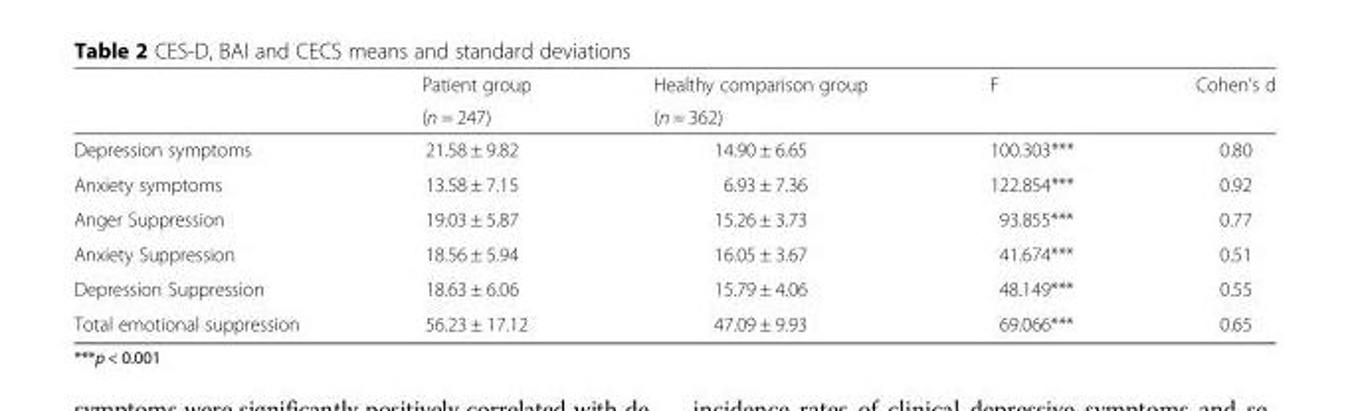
<table><thead><tr><td rowspan="2"></td><td rowspan="2">Patient group (n = 247)</td><td rowspan="2">Healthy comparison group (n = 362)</td><td rowspan="2">F</td><td rowspan="2">Cohen’s d</td></tr><tr></tr></thead><tbody><tr><td>Depression symptoms</td><td>21.58 ± 9.82</td><td>14.90 ± 6.65</td><td>100.303***</td><td>0.80</td></tr><tr><td>Anxiety symptoms</td><td>13.58 ± 7.15</td><td>6.93 ± 7.36</td><td>122.854***</td><td>0.92</td></tr><tr><td>Anger Suppression</td><td>19.03 ± 5.87</td><td>15.26 ± 3.73</td><td>93.855***</td><td>0.77</td></tr><tr><td>Anxiety Suppression</td><td>18.56 ± 5.94</td><td>16.05 ± 3.67</td><td>41.674***</td><td>0.51</td></tr><tr><td>Depression Suppression</td><td>18.63 ± 6.06</td><td>15.79 ± 4.06</td><td>48.149***</td><td>0.55</td></tr><tr><td>Total emotional suppression</td><td>56.23 ± 17.12</td><td>47.09 ± 9.93</td><td>69.066***</td><td>0.65</td></tr></tbody></table>